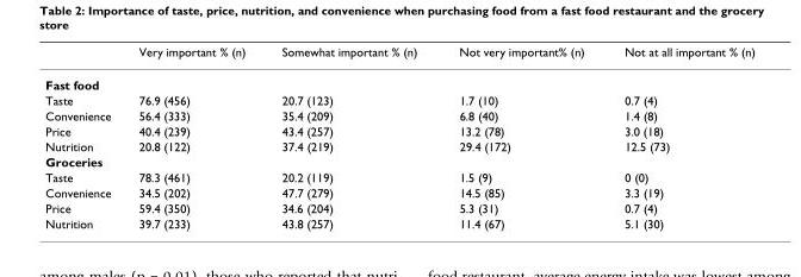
<table><thead><tr><td></td><td>Very important % (n)</td><td>Somewhat important % (n)</td><td>Not very important% (n)</td><td>Not at all important % (n)</td></tr></thead><tbody><tr><td colspan="5">Fast food</td></tr><tr><td>Taste</td><td>76.9 (456)</td><td>20.7 (123)</td><td>1.7 (10)</td><td>0.7 (4)</td></tr><tr><td>Convenience</td><td>56.4 (333)</td><td>35.4 (209)</td><td>6.8 (40)</td><td>1.4 (8)</td></tr><tr><td>Price</td><td>40.4 (239)</td><td>43.4 (257)</td><td>13.2 (78)</td><td>3.0 (18)</td></tr><tr><td>Nutrition</td><td>20.8 (122)</td><td>37.4 (219)</td><td>29.4 (172)</td><td>12.5 (73)</td></tr><tr><td colspan="5">Groceries</td></tr><tr><td>Taste</td><td>78.3 (461)</td><td>20.2 (119)</td><td>1.5 (9)</td><td>0 (0)</td></tr><tr><td>Convenience</td><td>34.5 (202)</td><td>47.7 (279)</td><td>14.5 (85)</td><td>3.3 (19)</td></tr><tr><td>Price</td><td>59.4 (350)</td><td>34.6 (204)</td><td>5.3 (31)</td><td>0.7 (4)</td></tr><tr><td>Nutrition</td><td>39.7 (233)</td><td>43.8 (257)</td><td>11.4 (67)</td><td>5.1 (30)</td></tr></tbody></table>